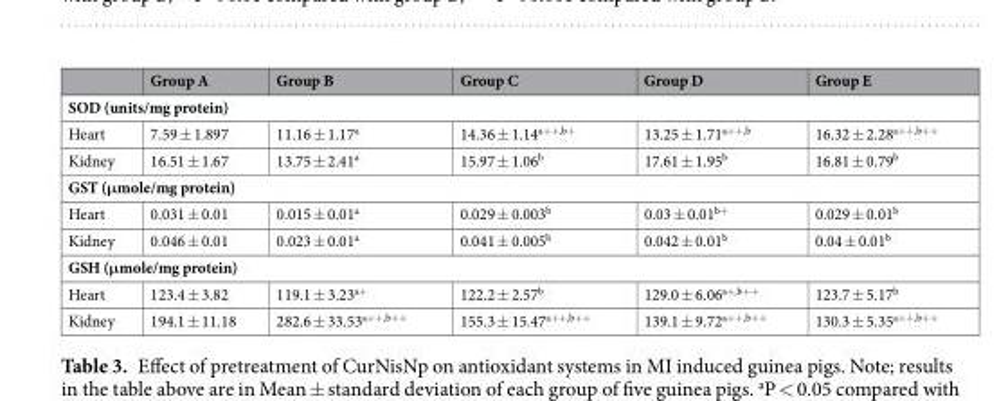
<table><thead><tr><td></td><td>Group A</td><td>Group B</td><td>Group C</td><td>Group D</td><td>Group E</td></tr></thead><tbody><tr><td colspan="6">SOD (units/mg protein)</td></tr><tr><td>Heart</td><td>7.59 ± 1.897</td><td>11.16 ± 1.17<sup>a</sup></td><td>14.36 ± 1.14<sup>a++,b+</sup></td><td>13.25 ± 1.71<sup>a++,b</sup></td><td>16.32 ± 2.28<sup>a++,b++</sup></td></tr><tr><td>Kidney</td><td>16.51 ± 1.67</td><td>13.75 ± 2.41<sup>a</sup></td><td>15.97 ± 1.06<sup>b</sup></td><td>17.61 ± 1.95<sup>b</sup></td><td>16.81 ± 0.79<sup>b</sup></td></tr><tr><td colspan="6">GST (μmole/mg protein)</td></tr><tr><td>Heart</td><td>0.031 ± 0.01</td><td>0.015 ± 0.01<sup>a</sup></td><td>0.029 ± 0.003<sup>b</sup></td><td>0.03 ± 0.01<sup>b+</sup></td><td>0.029 ± 0.01<sup>b</sup></td></tr><tr><td>Kidney</td><td>0.046 ± 0.01</td><td>0.023 ± 0.01<sup>a</sup></td><td>0.041 ± 0.005<sup>b</sup></td><td>0.042 ± 0.01<sup>b</sup></td><td>0.04 ± 0.01<sup>b</sup></td></tr><tr><td colspan="6">GSH (μmole/mg protein)</td></tr><tr><td>Heart</td><td>123.4 ± 3.82</td><td>119.1 ± 3.23<sup>a+</sup></td><td>122.2 ± 2.57<sup>b</sup></td><td>129.0 ± 6.06<sup>a+,b++</sup></td><td>123.7 ± 5.17<sup>b</sup></td></tr><tr><td>Kidney</td><td>194.1 ± 11.18</td><td>282.6 ± 33.53<sup>a++,b++</sup></td><td>155.3 ± 15.47<sup>a++,b++</sup></td><td>139.1 ± 9.72<sup>a++,b++</sup></td><td>130.3 ± 5.35<sup>a++,b++</sup></td></tr></tbody></table>